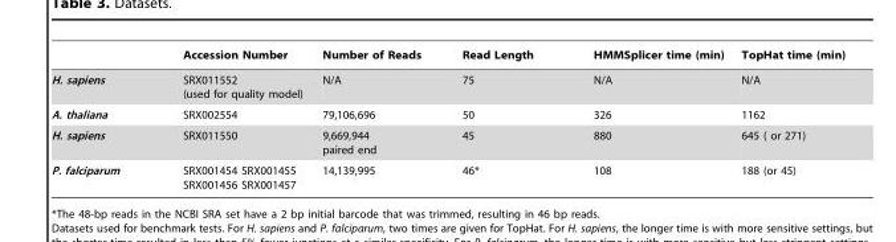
<table><thead><tr><td></td><td>Accession Number</td><td>Number of Reads</td><td>Read Length</td><td>HMMSplicer time (min)</td><td>TopHat time (min)</td></tr></thead><tbody><tr><td>H. sapiens</td><td>SRX011552 (used for quality model)</td><td>N/A</td><td>75</td><td>N/A</td><td>N/A</td></tr><tr><td>A. thaliana</td><td>SRX002554</td><td>79,106,696</td><td>50</td><td>326</td><td>1162</td></tr><tr><td>H. sapiens</td><td>SRX011550</td><td>9,669,944 paired end</td><td>45</td><td>880</td><td>645 ( or 271)</td></tr><tr><td>P. falciparum</td><td>SRX001454 SRX001455 SRX001456 SRX001457</td><td>14,139,995</td><td>46*</td><td>108</td><td>188 (or 45)</td></tr></tbody></table>